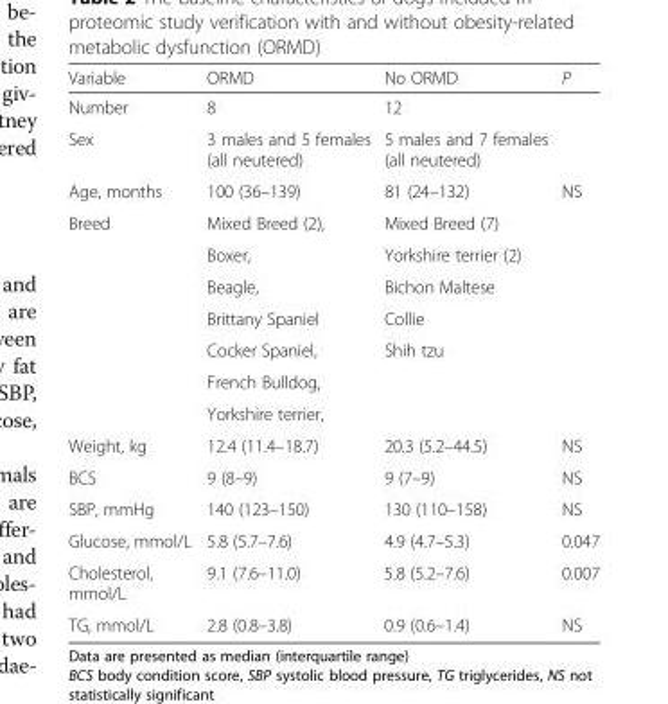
<table><thead><tr><td>Variable</td><td>ORMD</td><td>No ORMD</td><td>P</td></tr></thead><tbody><tr><td>Number</td><td>8</td><td>12</td><td></td></tr><tr><td>Sex</td><td>3 males and 5 females (all neutered)</td><td>5 males and 7 females (all neutered)</td><td></td></tr><tr><td>Age, months</td><td>100 (36–139)</td><td>81 (24–132)</td><td>NS</td></tr><tr><td rowspan="7">Breed</td><td>Mixed Breed (2),</td><td>Mixed Breed (7)</td><td rowspan="7"></td></tr><tr><td>Boxer,</td><td>Yorkshire terrier (2)</td></tr><tr><td>Beagle,</td><td>Bichon Maltese</td></tr><tr><td>Brittany Spaniel</td><td>Collie</td></tr><tr><td>Cocker Spaniel,</td><td rowspan="3">Shih tzu</td></tr><tr><td>French Bulldog,</td></tr><tr><td>Yorkshire terrier,</td></tr><tr><td>Weight, kg</td><td>12.4 (11.4–18.7)</td><td>20.3 (5.2–44.5)</td><td>NS</td></tr><tr><td>BCS</td><td>9 (8–9)</td><td>9 (7–9)</td><td>NS</td></tr><tr><td>SBP, mmHg</td><td>140 (123–150)</td><td>130 (110–158)</td><td>NS</td></tr><tr><td>Glucose, mmol/L</td><td>5.8 (5.7–7.6)</td><td>4.9 (4.7–5.3)</td><td>0.047</td></tr><tr><td>Cholesterol, mmol/L</td><td>9.1 (7.6–11.0)</td><td>5.8 (5.2–7.6)</td><td>0.007</td></tr><tr><td>TG, mmol/L</td><td>2.8 (0.8–3.8)</td><td>0.9 (0.6–1.4)</td><td>NS</td></tr></tbody></table>